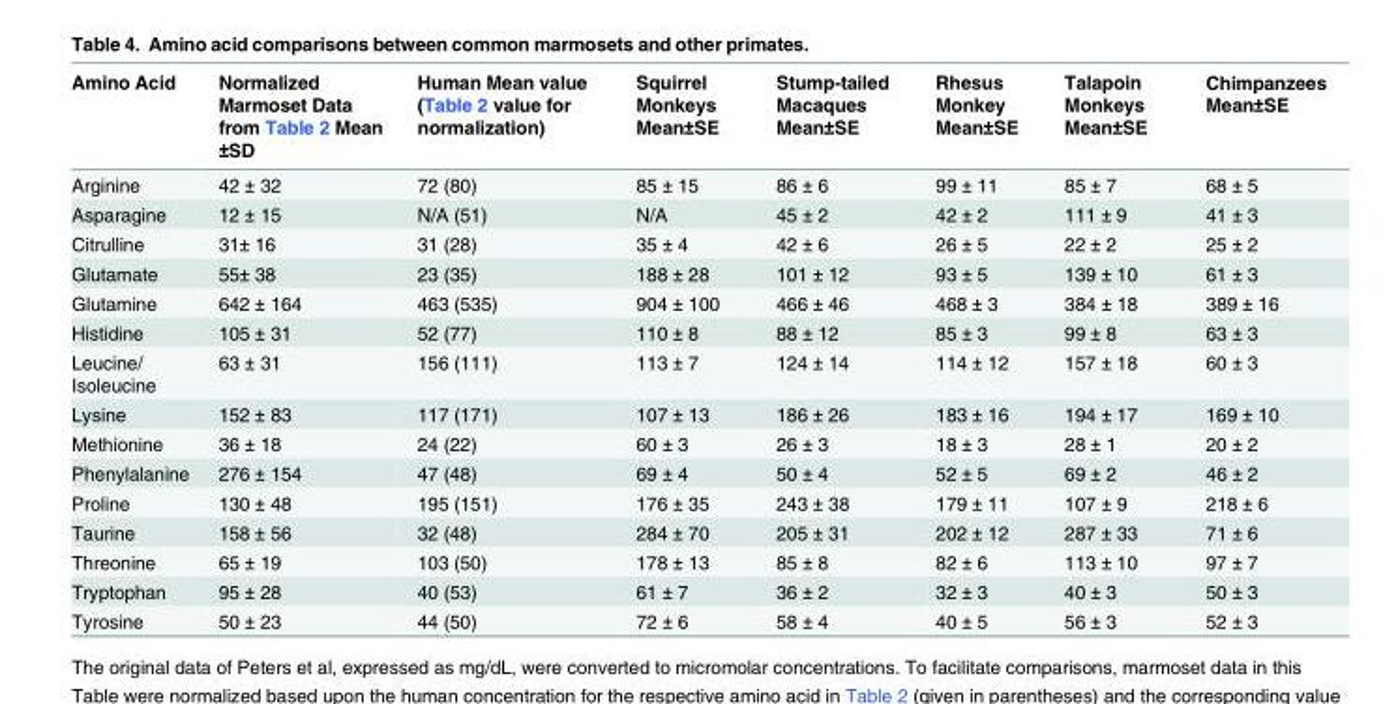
<table><thead><tr><td>Amino Acid</td><td>Normalized Marmoset Data from Table 2 Mean ±SD</td><td>Human Mean value (Table 2 value for normalization)</td><td>Squirrel Monkeys Mean±SE</td><td>Stump-tailed Macaques Mean±SE</td><td>Rhesus Monkey Mean±SE</td><td>Talapoin Monkeys Mean±SE</td><td>Chimpanzees Mean±SE</td></tr></thead><tbody><tr><td>Arginine</td><td>42 ± 32</td><td>72 (80)</td><td>85 ± 15</td><td>86 ± 6</td><td>99 ± 11</td><td>85 ± 7</td><td>68 ± 5</td></tr><tr><td>Asparagine</td><td>12 ± 15</td><td>N/A (51)</td><td>N/A</td><td>45 ± 2</td><td>42 ± 2</td><td>111 ± 9</td><td>41 ± 3</td></tr><tr><td>Citrulline</td><td>31± 16</td><td>31 (28)</td><td>35 ± 4</td><td>42 ± 6</td><td>26 ± 5</td><td>22 ± 2</td><td>25 ± 2</td></tr><tr><td>Glutamate</td><td>55± 38</td><td>23 (35)</td><td>188 ± 28</td><td>101 ± 12</td><td>93 ± 5</td><td>139 ± 10</td><td>61 ± 3</td></tr><tr><td>Glutamine</td><td>642 ± 164</td><td>463 (535)</td><td>904 ± 100</td><td>466 ± 46</td><td>468 ± 3</td><td>384 ± 18</td><td>389 ± 16</td></tr><tr><td>Histidine</td><td>105 ± 31</td><td>52 (77)</td><td>110 ± 8</td><td>88 ± 12</td><td>85 ± 3</td><td>99 ± 8</td><td>63 ± 3</td></tr><tr><td>Leucine/ Isoleucine</td><td>63 ± 31</td><td>156 (111)</td><td>113 ± 7</td><td>124 ± 14</td><td>114 ± 12</td><td>157 ± 18</td><td>60 ± 3</td></tr><tr><td>Lysine</td><td>152 ± 83</td><td>117 (171)</td><td>107 ± 13</td><td>186 ± 26</td><td>183 ± 16</td><td>194 ± 17</td><td>169 ± 10</td></tr><tr><td>Methionine</td><td>36 ± 18</td><td>24 (22)</td><td>60 ± 3</td><td>26 ± 3</td><td>18 ± 3</td><td>28 ± 1</td><td>20 ± 2</td></tr><tr><td>Phenylalanine</td><td>276 ± 154</td><td>47 (48)</td><td>69 ± 4</td><td>50 ± 4</td><td>52 ± 5</td><td>69 ± 2</td><td>46 ± 2</td></tr><tr><td>Proline</td><td>130 ± 48</td><td>195 (151)</td><td>176 ± 35</td><td>243 ± 38</td><td>179 ± 11</td><td>107 ± 9</td><td>218 ± 6</td></tr><tr><td>Taurine</td><td>158 ± 56</td><td>32 (48)</td><td>284 ± 70</td><td>205 ± 31</td><td>202 ± 12</td><td>287 ± 33</td><td>71 ± 6</td></tr><tr><td>Threonine</td><td>65 ± 19</td><td>103 (50)</td><td>178 ± 13</td><td>85 ± 8</td><td>82 ± 6</td><td>113 ± 10</td><td>97 ± 7</td></tr><tr><td>Tryptophan</td><td>95 ± 28</td><td>40 (53)</td><td>61 ± 7</td><td>36 ± 2</td><td>32 ± 3</td><td>40 ± 3</td><td>50 ± 3</td></tr><tr><td>Tyrosine</td><td>50 ± 23</td><td>44 (50)</td><td>72 ± 6</td><td>58 ± 4</td><td>40 ± 5</td><td>56 ± 3</td><td>52 ± 3</td></tr></tbody></table>